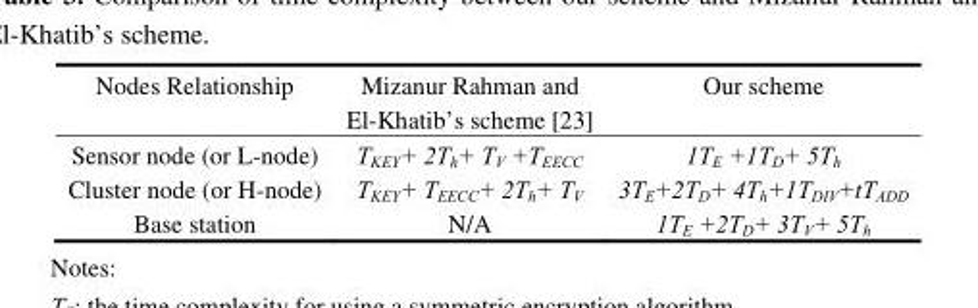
<table><thead><tr><td>Nodes Relationship</td><td>Mizanur Rahman and El-Khatib’s scheme [23]</td><td>Our scheme</td></tr></thead><tbody><tr><td>Sensor node (or L-node)</td><td>T<sub>KEY</sub>+ 2T<sub>h</sub>+ T<sub>V</sub> +T<sub>EECC</sub></td><td>1T<sub>E</sub> +1T<sub>D</sub>+ 5T<sub>h</sub></td></tr><tr><td>Cluster node (or H-node)</td><td>T<sub>KEY</sub>+ T<sub>EECC</sub>+ 2T<sub>h</sub>+ T<sub>V</sub></td><td>3T<sub>E</sub>+2T<sub>D</sub>+ 4T<sub>h</sub>+1T<sub>DIV</sub>+tT<sub>ADD</sub></td></tr><tr><td>Base station</td><td>N/A</td><td>1T<sub>E</sub> +2T<sub>D</sub>+ 3T<sub>V</sub>+ 5T<sub>h</sub></td></tr></tbody></table>